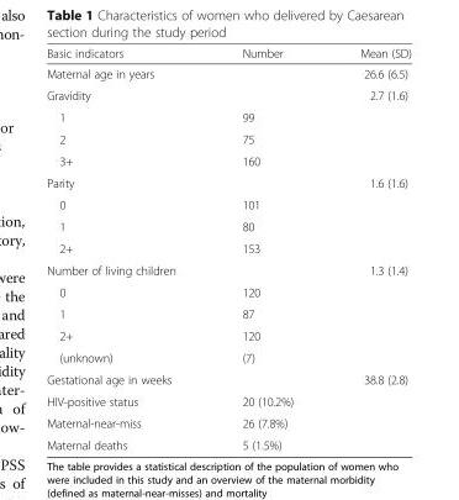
<table><thead><tr><td>Basic indicators</td><td>Number</td><td>Mean (SD)</td></tr></thead><tbody><tr><td>Maternal age in years</td><td></td><td>26.6 (6.5)</td></tr><tr><td colspan="2">Gravidity</td><td rowspan="4">2.7 (1.6)</td></tr><tr><td>1</td><td>99</td></tr><tr><td>2</td><td>75</td></tr><tr><td>3+</td><td>160</td></tr><tr><td colspan="2">Parity</td><td rowspan="4">1.6 (1.6)</td></tr><tr><td>0</td><td>101</td></tr><tr><td>1</td><td>80</td></tr><tr><td>2+</td><td>153</td></tr><tr><td colspan="2">Number of living children</td><td rowspan="5">1.3 (1.4)</td></tr><tr><td>0</td><td>120</td></tr><tr><td>1</td><td>87</td></tr><tr><td>2+</td><td>120</td></tr><tr><td>(unknown)</td><td>(7)</td></tr><tr><td>Gestational age in weeks</td><td></td><td>38.8 (2.8)</td></tr><tr><td>HIV-positive status</td><td>20 (10.2%)</td><td></td></tr><tr><td>Maternal-near-miss</td><td>26 (7.8%)</td><td></td></tr><tr><td>Maternal deaths</td><td>5 (1.5%)</td><td></td></tr></tbody></table>